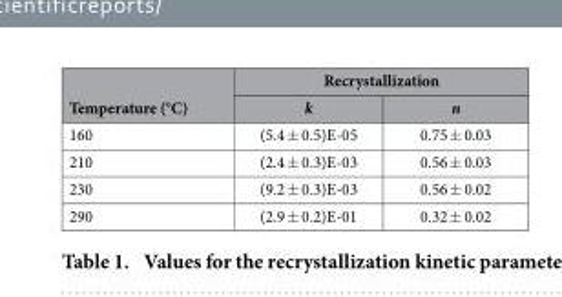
<table><thead><tr><td rowspan="2">Temperature (°C)</td><td colspan="2">Recrystallization</td></tr><tr><td>k</td><td>n</td></tr></thead><tbody><tr><td>160</td><td>(5.4 ± 0.5)E-05</td><td>0.75 ± 0.03</td></tr><tr><td>210</td><td>(2.4 ± 0.3)E-03</td><td>0.56 ± 0.03</td></tr><tr><td>230</td><td>(9.2 ± 0.3)E-03</td><td>0.56 ± 0.02</td></tr><tr><td>290</td><td>(2.9 ± 0.2)E-01</td><td>0.32 ± 0.02</td></tr></tbody></table>